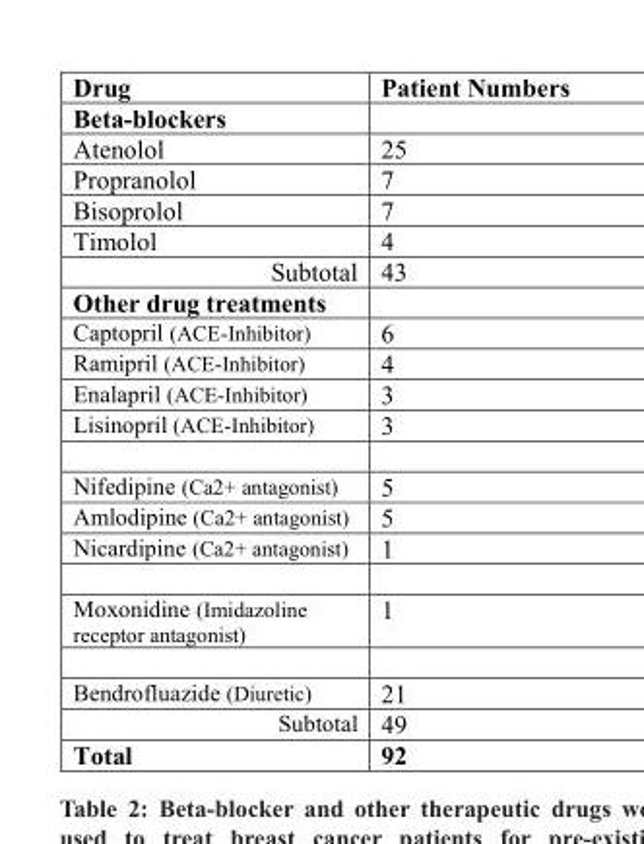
<table><thead><tr><td>Drug</td><td>Patient Numbers</td></tr></thead><tbody><tr><td colspan="2">beta-blockers</td></tr><tr><td>Atenolol</td><td>25</td></tr><tr><td>Propranolol</td><td>7</td></tr><tr><td>Bisoprolol</td><td>7</td></tr><tr><td>Timolol</td><td>4</td></tr><tr><td>Subtotal</td><td>43</td></tr><tr><td colspan="2">Other drug treatments</td></tr><tr><td>Captopril (ACE-Inhibitor)</td><td>6</td></tr><tr><td>Ramipril (ACE-Inhibitor)</td><td>4</td></tr><tr><td>Enalapril (ACE-Inhibitor)</td><td>3</td></tr><tr><td>Lisinopril (ACE-Inhibitor)</td><td>3</td></tr><tr><td>Nifedipine (Ca2+ antagonist)</td><td>5</td></tr><tr><td>Amlodipine (Ca2+ antagonist)</td><td>5</td></tr><tr><td>Nicardipine (Ca2+ antagonist)</td><td>1</td></tr><tr><td>Moxonidine (Imidazoline receptor antagonist)</td><td>1</td></tr><tr><td>Bendrofluazide (Diuretic)</td><td>21</td></tr><tr><td>Subtotal</td><td>49</td></tr><tr><td>total</td><td>92</td></tr></tbody></table>